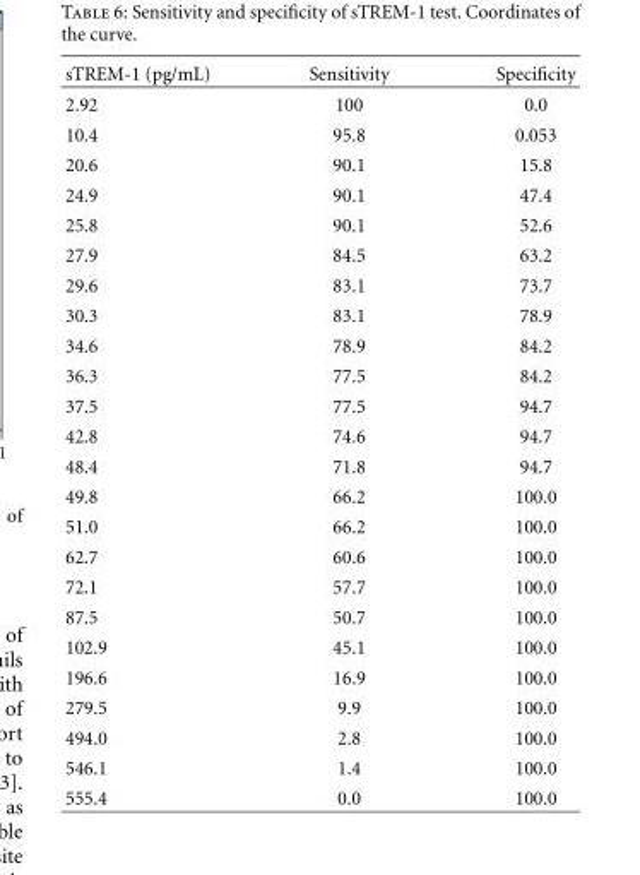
<table><thead><tr><td>sTREM-1 (pg/mL)</td><td>Sensitivity</td><td>Specificity</td></tr></thead><tbody><tr><td>2.92</td><td>100</td><td>0.0</td></tr><tr><td>10.4</td><td>95.8</td><td>0.053</td></tr><tr><td>20.6</td><td>90.1</td><td>15.8</td></tr><tr><td>24.9</td><td>90.1</td><td>47.4</td></tr><tr><td>25.8</td><td>90.1</td><td>52.6</td></tr><tr><td>27.9</td><td>84.5</td><td>63.2</td></tr><tr><td>29.6</td><td>83.1</td><td>73.7</td></tr><tr><td>30.3</td><td>83.1</td><td>78.9</td></tr><tr><td>34.6</td><td>78.9</td><td>84.2</td></tr><tr><td>36.3</td><td>77.5</td><td>84.2</td></tr><tr><td>37.5</td><td>77.5</td><td>94.7</td></tr><tr><td>42.8</td><td>74.6</td><td>94.7</td></tr><tr><td>48.4</td><td>71.8</td><td>94.7</td></tr><tr><td>49.8</td><td>66.2</td><td>100.0</td></tr><tr><td>51.0</td><td>66.2</td><td>100.0</td></tr><tr><td>62.7</td><td>60.6</td><td>100.0</td></tr><tr><td>72.1</td><td>57.7</td><td>100.0</td></tr><tr><td>87.5</td><td>50.7</td><td>100.0</td></tr><tr><td>102.9</td><td>45.1</td><td>100.0</td></tr><tr><td>196.6</td><td>16.9</td><td>100.0</td></tr><tr><td>279.5</td><td>9.9</td><td>100.0</td></tr><tr><td>494.0</td><td>2.8</td><td>100.0</td></tr><tr><td>546.1</td><td>1.4</td><td>100.0</td></tr><tr><td>555.4</td><td>0.0</td><td>100.0</td></tr></tbody></table>